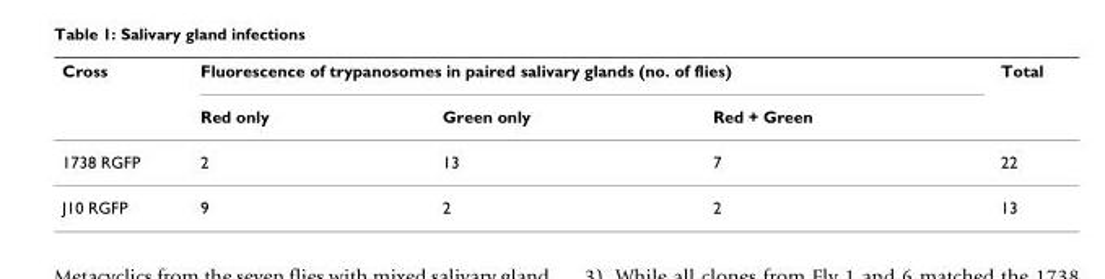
<table><thead><tr><td rowspan="2">Cross</td><td colspan="3">Fluorescence of trypanosomes in paired salivary glands (no. of flies)</td><td rowspan="2">Total</td></tr><tr><td>Red only</td><td>Green only</td><td>Red + Green</td></tr></thead><tbody><tr><td>1738 RGFP</td><td>2</td><td>13</td><td>7</td><td>22</td></tr><tr><td>J10 RGFP</td><td>9</td><td>2</td><td>2</td><td>13</td></tr></tbody></table>